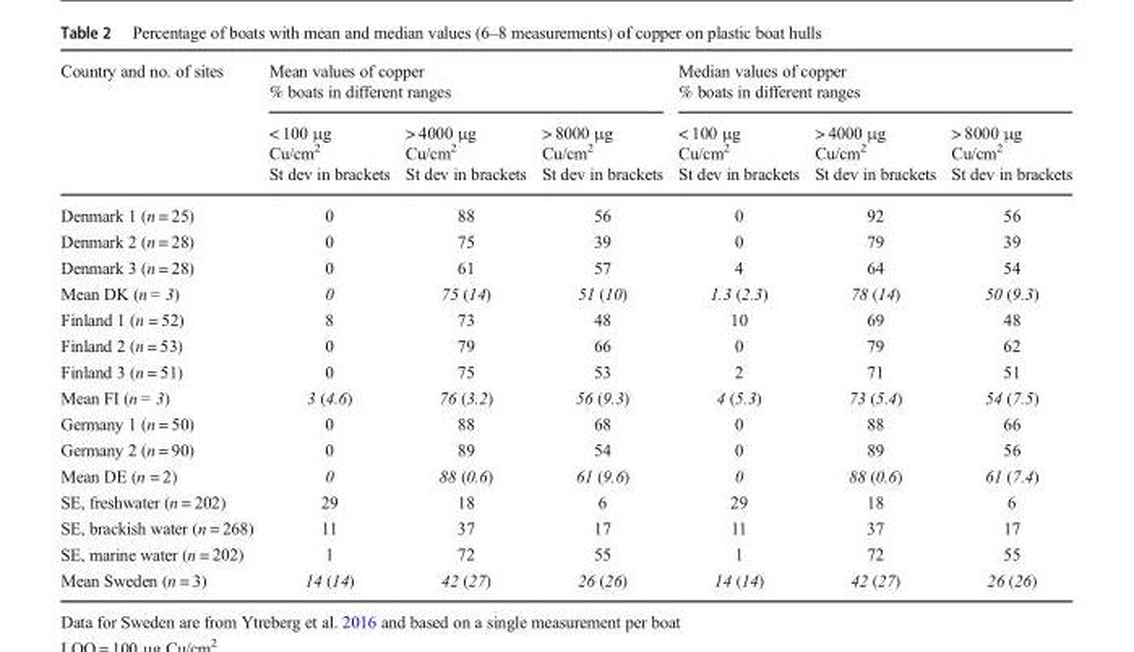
<table><thead><tr><td rowspan="2">Country and no. of sites</td><td colspan="3">Mean values of copper % boats in different ranges</td><td colspan="3">Median values of copper % boats in different ranges</td></tr><tr><td>&lt; 100 μg Cu/cm<sup>2</sup> St dev in brackets</td><td>&gt; 4000 μg Cu/cm<sup>2</sup> St dev in brackets</td><td>&gt; 8000 μg Cu/cm<sup>2</sup> St dev in brackets</td><td>&lt; 100 μg Cu/cm<sup>2</sup> St dev in brackets</td><td>&gt; 4000 μg Cu/cm<sup>2</sup> St dev in brackets</td><td>&gt; 8000 μg Cu/cm<sup>2</sup> St dev in brackets</td></tr></thead><tbody><tr><td>Denmark 1 (n = 25)</td><td>0</td><td>88</td><td>56</td><td>0</td><td>92</td><td>56</td></tr><tr><td>Denmark 2 (n = 28)</td><td>0</td><td>75</td><td>39</td><td>0</td><td>79</td><td>39</td></tr><tr><td>Denmark 3 (n = 28)</td><td>0</td><td>61</td><td>57</td><td>4</td><td>64</td><td>54</td></tr><tr><td>Mean DK (n = 3)</td><td>0</td><td>75 (14)</td><td>51 (10)</td><td>1.3 (2.3)</td><td>78 (14)</td><td>50 (9.3)</td></tr><tr><td>Finland 1 (n = 52)</td><td>8</td><td>73</td><td>48</td><td>10</td><td>69</td><td>48</td></tr><tr><td>Finland 2 (n = 53)</td><td>0</td><td>79</td><td>66</td><td>0</td><td>79</td><td>62</td></tr><tr><td>Finland 3 (n = 51)</td><td>0</td><td>75</td><td>53</td><td>2</td><td>71</td><td>51</td></tr><tr><td>Mean FI (n = 3)</td><td>3 (4.6)</td><td>76 (3.2)</td><td>56 (9.3)</td><td>4 (5.3)</td><td>73 (5.4)</td><td>54 (7.5)</td></tr><tr><td>Germany 1 (n = 50)</td><td>0</td><td>88</td><td>68</td><td>0</td><td>88</td><td>66</td></tr><tr><td>Germany 2 (n = 90)</td><td>0</td><td>89</td><td>54</td><td>0</td><td>89</td><td>56</td></tr><tr><td>Mean DE (n = 2)</td><td>0</td><td>88 (0.6)</td><td>61 (9.6)</td><td>0</td><td>88 (0.6)</td><td>61 (7.4)</td></tr><tr><td>SE, freshwater (n = 202)</td><td>29</td><td>18</td><td>6</td><td>29</td><td>18</td><td>6</td></tr><tr><td>SE, brackish water (n = 268)</td><td>11</td><td>37</td><td>17</td><td>11</td><td>37</td><td>17</td></tr><tr><td>SE, marine water (n = 202)</td><td>1</td><td>72</td><td>55</td><td>1</td><td>72</td><td>55</td></tr><tr><td>Mean Sweden (n = 3)</td><td>14 (14)</td><td>42 (27)</td><td>26 (26)</td><td>14 (14)</td><td>42 (27)</td><td>26 (26)</td></tr></tbody></table>